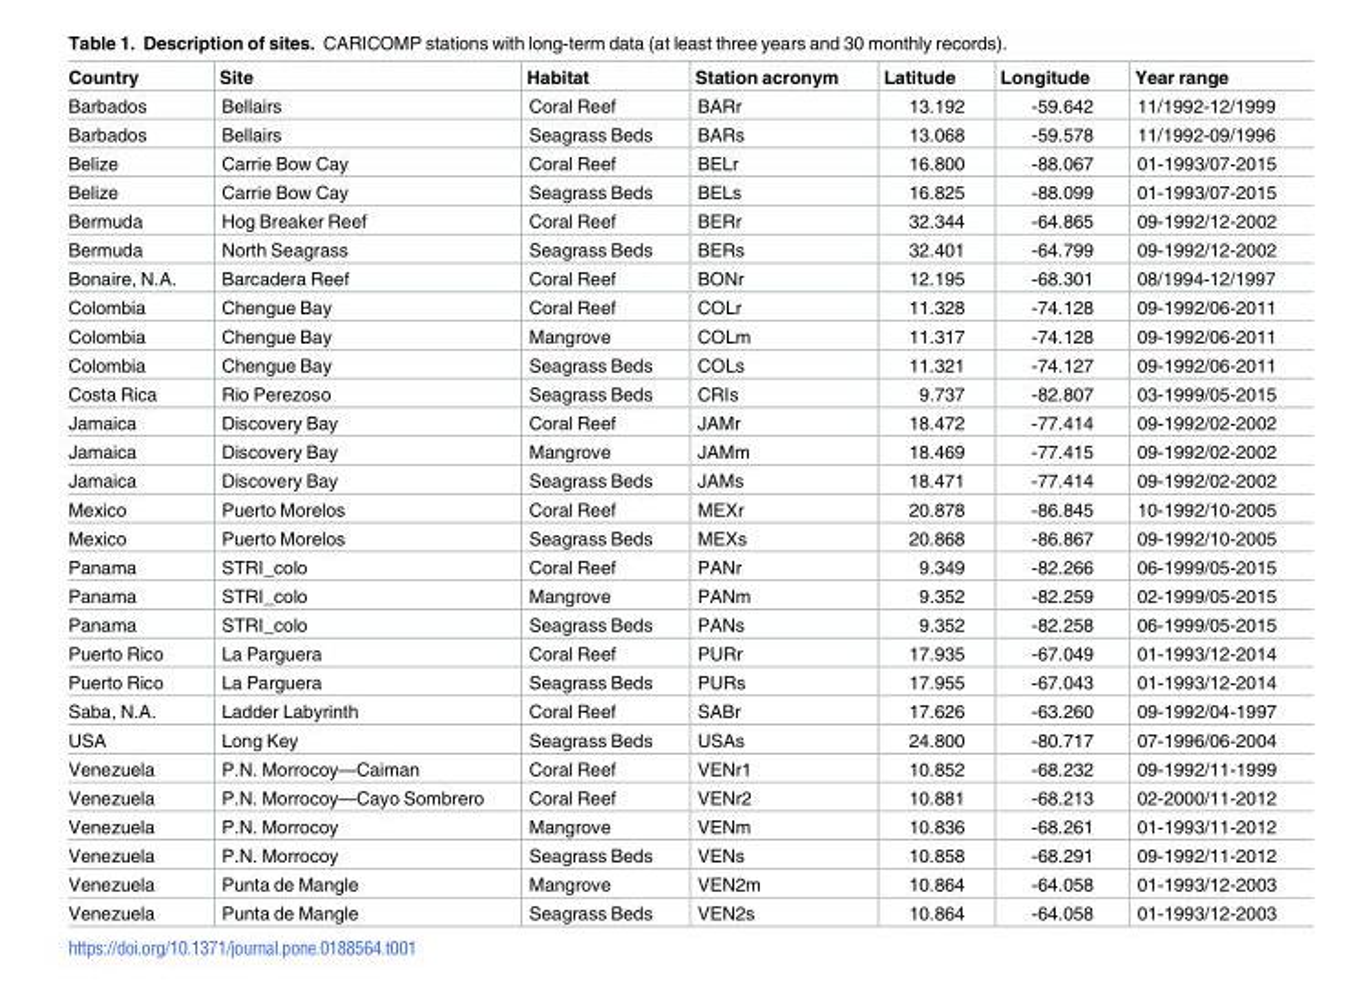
<table><thead><tr><td>Country</td><td>Site</td><td>Habitat</td><td>Station acronym</td><td>Latitude</td><td>Longitude</td><td>Year range</td></tr></thead><tbody><tr><td>Barbados</td><td>Bellairs</td><td>Coral Reef</td><td>BARr</td><td>13.192</td><td>-59.642</td><td>11/1992-12/1999</td></tr><tr><td>Barbados</td><td>Bellairs</td><td>Seagrass Beds</td><td>BARs</td><td>13.068</td><td>-59.578</td><td>11/1992-09/1996</td></tr><tr><td>Belize</td><td>Carrie Bow Cay</td><td>Coral Reef</td><td>BELr</td><td>16.800</td><td>-88.067</td><td>01-1993/07-2015</td></tr><tr><td>Belize</td><td>Carrie Bow Cay</td><td>Seagrass Beds</td><td>BELs</td><td>16.825</td><td>-88.099</td><td>01-1993/07-2015</td></tr><tr><td>Bermuda</td><td>Hog Breaker Reef</td><td>Coral Reef</td><td>BERr</td><td>32.344</td><td>-64.865</td><td>09-1992/12-2002</td></tr><tr><td>Bermuda</td><td>North Seagrass</td><td>Seagrass Beds</td><td>BERs</td><td>32.401</td><td>-64.799</td><td>09-1992/12-2002</td></tr><tr><td>Bonaire, N.A.</td><td>Barcadera Reef</td><td>Coral Reef</td><td>BONr</td><td>12.195</td><td>-68.301</td><td>08/1994-12/1997</td></tr><tr><td>Colombia</td><td>Chengue Bay</td><td>Coral Reef</td><td>COLr</td><td>11.328</td><td>-74.128</td><td>09-1992/06-2011</td></tr><tr><td>Colombia</td><td>Chengue Bay</td><td>Mangrove</td><td>COLm</td><td>11.317</td><td>-74.128</td><td>09-1992/06-2011</td></tr><tr><td>Colombia</td><td>Chengue Bay</td><td>Seagrass Beds</td><td>COLs</td><td>11.321</td><td>-74.127</td><td>09-1992/06-2011</td></tr><tr><td>Costa Rica</td><td>Rio Perezoso</td><td>Seagrass Beds</td><td>CRIs</td><td>9.737</td><td>-82.807</td><td>03-1999/05-2015</td></tr><tr><td>Jamaica</td><td>Discovery Bay</td><td>Coral Reef</td><td>JAMr</td><td>18.472</td><td>-77.414</td><td>09-1992/02-2002</td></tr><tr><td>Jamaica</td><td>Discovery Bay</td><td>Mangrove</td><td>JAMm</td><td>18.469</td><td>-77.415</td><td>09-1992/02-2002</td></tr><tr><td>Jamaica</td><td>Discovery Bay</td><td>Seagrass Beds</td><td>JAMs</td><td>18.471</td><td>-77.414</td><td>09-1992/02-2002</td></tr><tr><td>Mexico</td><td>Puerto Morelos</td><td>Coral Reef</td><td>MEXr</td><td>20.878</td><td>-86.845</td><td>10-1992/10-2005</td></tr><tr><td>Mexico</td><td>Puerto Morelos</td><td>Seagrass Beds</td><td>MEXs</td><td>20.868</td><td>-86.867</td><td>09-1992/10-2005</td></tr><tr><td>Panama</td><td>STRI_colo</td><td>Coral Reef</td><td>PANr</td><td>9.349</td><td>-82.266</td><td>06-1999/05-2015</td></tr><tr><td>Panama</td><td>STRI_colo</td><td>Mangrove</td><td>PANm</td><td>9.352</td><td>-82.259</td><td>02-1999/05-2015</td></tr><tr><td>Panama</td><td>STRI_colo</td><td>Seagrass Beds</td><td>PANs</td><td>9.352</td><td>-82.258</td><td>06-1999/05-2015</td></tr><tr><td>Puerto Rico</td><td>La Parguera</td><td>Coral Reef</td><td>PURr</td><td>17.935</td><td>-67.049</td><td>01-1993/12-2014</td></tr><tr><td>Puerto Rico</td><td>La Parguera</td><td>Seagrass Beds</td><td>PURs</td><td>17.955</td><td>-67.043</td><td>01-1993/12-2014</td></tr><tr><td>Saba, N.A.</td><td>Ladder Labyrinth</td><td>Coral Reef</td><td>SABr</td><td>17.626</td><td>-63.260</td><td>09-1992/04-1997</td></tr><tr><td>USA</td><td>Long Key</td><td>Seagrass Beds</td><td>USAs</td><td>24.800</td><td>-80.717</td><td>07-1996/06-2004</td></tr><tr><td>Venezuela</td><td>P.N. Morrocoy—Caiman</td><td>Coral Reef</td><td>VENr1</td><td>10.852</td><td>-68.232</td><td>09-1992/11-1999</td></tr><tr><td>Venezuela</td><td>P.N. Morrocoy—Cayo Sombrero</td><td>Coral Reef</td><td>VENr2</td><td>10.881</td><td>-68.213</td><td>02-2000/11-2012</td></tr><tr><td>Venezuela</td><td>P.N. Morrocoy</td><td>Mangrove</td><td>VENm</td><td>10.836</td><td>-68.261</td><td>01-1993/11-2012</td></tr><tr><td>Venezuela</td><td>P.N. Morrocoy</td><td>Seagrass Beds</td><td>VENs</td><td>10.858</td><td>-68.291</td><td>09-1992/11-2012</td></tr><tr><td>Venezuela</td><td>Punta de Mangle</td><td>Mangrove</td><td>VEN2m</td><td>10.864</td><td>-64.058</td><td>01-1993/12-2003</td></tr><tr><td>Venezuela</td><td>Punta de Mangle</td><td>Seagrass Beds</td><td>VEN2s</td><td>10.864</td><td>-64.058</td><td>01-1993/12-2003</td></tr></tbody></table>